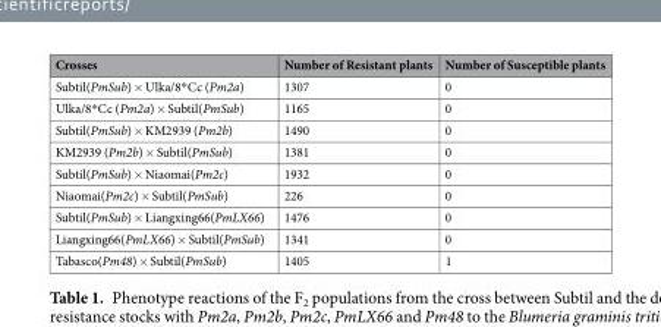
<table><thead><tr><td>Crosses</td><td>Number of Resistant plants</td><td>Number of Susceptible plants</td></tr></thead><tbody><tr><td>Subtil(PmSub) × Ulka/8*Cc (Pm2a)</td><td>1307</td><td>0</td></tr><tr><td>Ulka/8*Cc (Pm2a) × Subtil(PmSub)</td><td>1165</td><td>0</td></tr><tr><td>Subtil(PmSub) × KM2939 (Pm2b)</td><td>1490</td><td>0</td></tr><tr><td>KM2939 (Pm2b) × Subtil(PmSub)</td><td>1381</td><td>0</td></tr><tr><td>Subtil(PmSub) × Niaomai(Pm2c)</td><td>1932</td><td>0</td></tr><tr><td>Niaomai(Pm2c) × Subtil(PmSub)</td><td>226</td><td>0</td></tr><tr><td>Subtil(PmSub) × Liangxing66(PmLX66)</td><td>1476</td><td>0</td></tr><tr><td>Liangxing66(PmLX66) × Subtil(PmSub)</td><td>1341</td><td>0</td></tr><tr><td>Tabasco(Pm48) × Subtil(PmSub)</td><td>1405</td><td>1</td></tr></tbody></table>